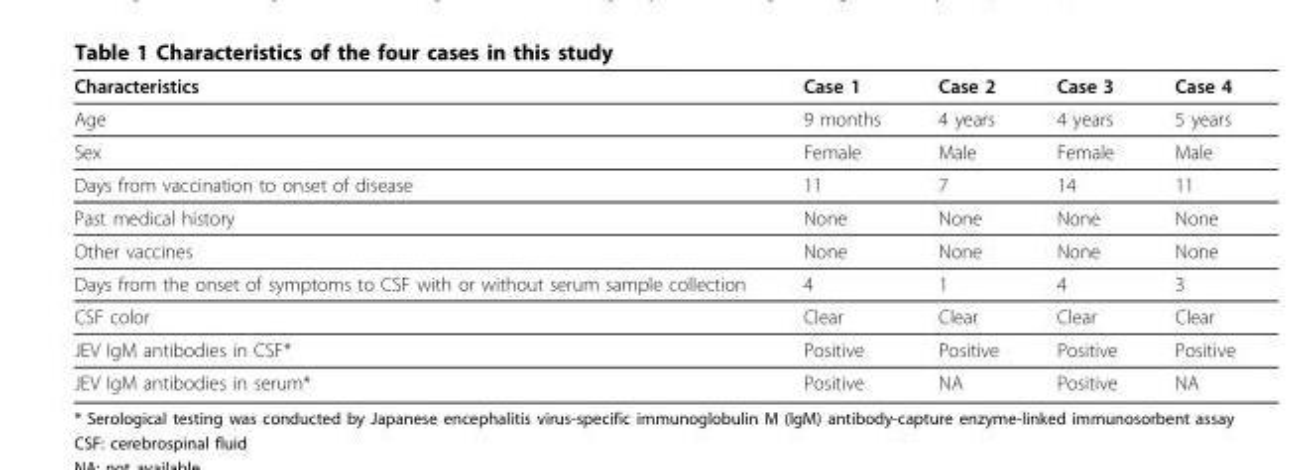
<table><thead><tr><td>Characteristics</td><td>Case 1</td><td>Case 2</td><td>Case 3</td><td>Case 4</td></tr></thead><tbody><tr><td>Age</td><td>9 months</td><td>4 years</td><td>4 years</td><td>5 years</td></tr><tr><td>Sex</td><td>Female</td><td>Male</td><td>Female</td><td>Male</td></tr><tr><td>Days from vaccination to onset of disease</td><td>11</td><td>7</td><td>14</td><td>11</td></tr><tr><td>Past medical history</td><td>None</td><td>None</td><td>None</td><td>None</td></tr><tr><td>Other vaccines</td><td>None</td><td>None</td><td>None</td><td>None</td></tr><tr><td>Days from the onset of symptoms to CSF with or without serum sample collection</td><td>4</td><td>1</td><td>4</td><td>3</td></tr><tr><td>CSF color</td><td>Clear</td><td>Clear</td><td>Clear</td><td>Clear</td></tr><tr><td>JEV IgM antibodies in CSF*</td><td>Positive</td><td>Positive</td><td>Positive</td><td>Positive</td></tr><tr><td>JEV IgM antibodies in serum*</td><td>Positive</td><td>NA</td><td>Positive</td><td>NA</td></tr></tbody></table>